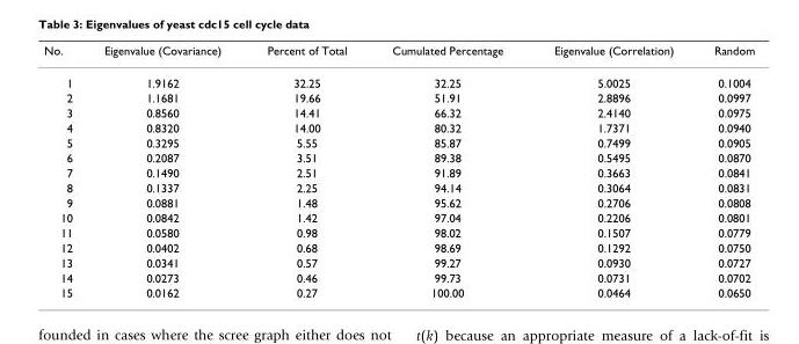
<table><thead><tr><td>No.</td><td>Eigenvalue (Covariance)</td><td>Percent of Total</td><td>Cumulated Percentage</td><td>Eigenvalue (Correlation)</td><td>Random</td></tr></thead><tbody><tr><td>1</td><td>1.9162</td><td>32.25</td><td>32.25</td><td>5.0025</td><td>0.1004</td></tr><tr><td>2</td><td>1.1681</td><td>19.66</td><td>51.91</td><td>2.8896</td><td>0.0997</td></tr><tr><td>3</td><td>0.8560</td><td>14.41</td><td>66.32</td><td>2.4140</td><td>0.0975</td></tr><tr><td>4</td><td>0.8320</td><td>14.00</td><td>80.32</td><td>1.7371</td><td>0.0940</td></tr><tr><td>5</td><td>0.3295</td><td>5.55</td><td>85.87</td><td>0.7499</td><td>0.0905</td></tr><tr><td>6</td><td>0.2087</td><td>3.51</td><td>89.38</td><td>0.5495</td><td>0.0870</td></tr><tr><td>7</td><td>0.1490</td><td>2.51</td><td>91.89</td><td>0.3663</td><td>0.0841</td></tr><tr><td>8</td><td>0.1337</td><td>2.25</td><td>94.14</td><td>0.3064</td><td>0.0831</td></tr><tr><td>9</td><td>0.0881</td><td>1.48</td><td>95.62</td><td>0.2706</td><td>0.0808</td></tr><tr><td>10</td><td>0.0842</td><td>1.42</td><td>97.04</td><td>0.2206</td><td>0.0801</td></tr><tr><td>11</td><td>0.0580</td><td>0.98</td><td>98.02</td><td>0.1507</td><td>0.0779</td></tr><tr><td>12</td><td>0.0402</td><td>0.68</td><td>98.69</td><td>0.1292</td><td>0.0750</td></tr><tr><td>13</td><td>0.0341</td><td>0.57</td><td>99.27</td><td>0.0930</td><td>0.0727</td></tr><tr><td>14</td><td>0.0273</td><td>0.46</td><td>99.73</td><td>0.0731</td><td>0.0702</td></tr><tr><td>15</td><td>0.0162</td><td>0.27</td><td>100.00</td><td>0.0464</td><td>0.0650</td></tr></tbody></table>